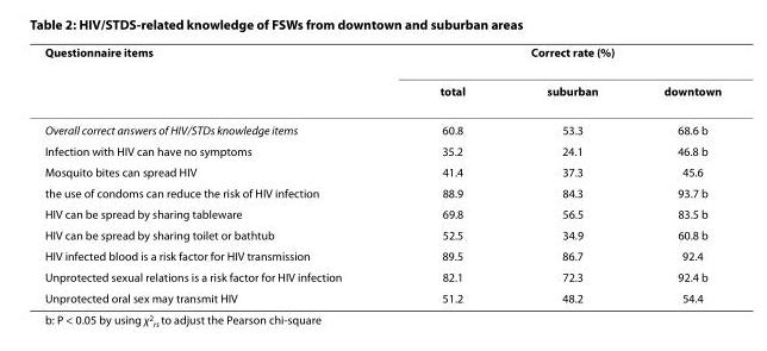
<table><thead><tr><td rowspan="2">Questionnaire items</td><td colspan="3">Correct rate (%)</td></tr><tr><td>total</td><td>suburban</td><td>downtown</td></tr></thead><tbody><tr><td>Overall correct answers of HIV/STDs knowledge items</td><td>60.8</td><td>53.3</td><td>68.6 b</td></tr><tr><td>Infection with HIV can have no symptoms</td><td>35.2</td><td>24.1</td><td>46.8 b</td></tr><tr><td>Mosquito bites can spread HIV</td><td>41.4</td><td>37.3</td><td>45.6</td></tr><tr><td>the use of condoms can reduce the risk of HIV infection</td><td>88.9</td><td>84.3</td><td>93.7 b</td></tr><tr><td>HIV can be spread by sharing tableware</td><td>69.8</td><td>56.5</td><td>83.5 b</td></tr><tr><td>HIV can be spread by sharing toilet or bathtub</td><td>52.5</td><td>34.9</td><td>60.8 b</td></tr><tr><td>HIV infected blood is a risk factor for HIV transmission</td><td>89.5</td><td>86.7</td><td>92.4</td></tr><tr><td>Unprotected sexual relations is a risk factor for HIV infection</td><td>82.1</td><td>72.3</td><td>92.4 b</td></tr><tr><td>Unprotected oral sex may transmit HIV</td><td>51.2</td><td>48.2</td><td>54.4</td></tr></tbody></table>